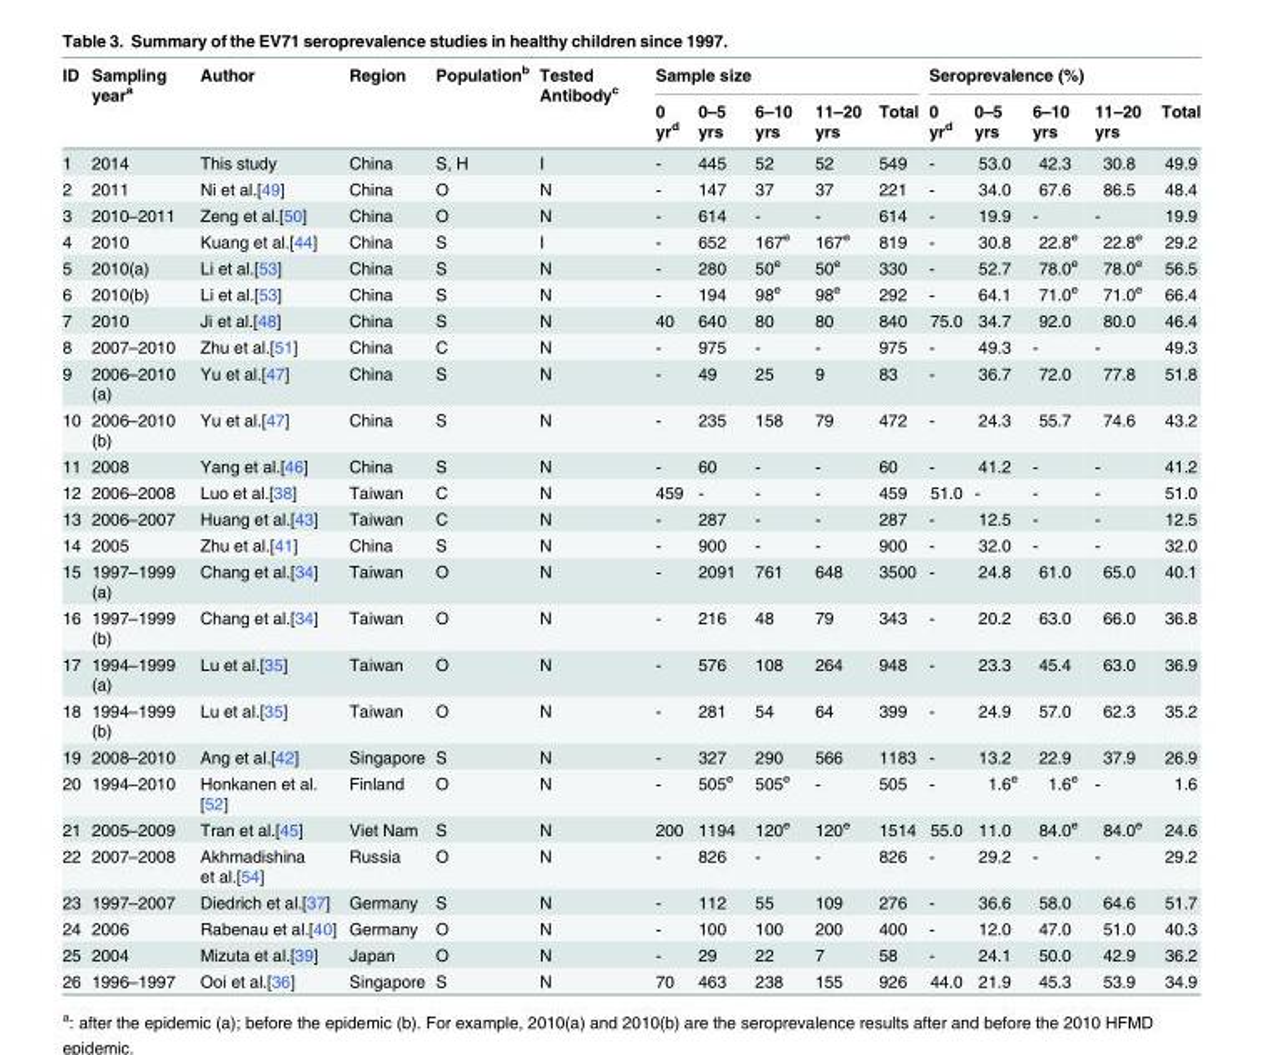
<table><thead><tr><td rowspan="2">ID</td><td rowspan="2">Sampling year<sup>a</sup></td><td rowspan="2">Author</td><td rowspan="2">Region</td><td rowspan="2">Population<sup>b</sup></td><td rowspan="2">Tested Antibody<sup>c</sup></td><td colspan="5">Sample size</td><td colspan="5">Seroprevalence (%)</td></tr><tr><td>0 yr<sup>d</sup></td><td>0–5 yrs</td><td>6–10 yrs</td><td>11–20 yrs</td><td>Total</td><td>0 yr<sup>d</sup></td><td>0–5 yrs</td><td>6–10 yrs</td><td>11–20 yrs</td><td>Total</td></tr></thead><tbody><tr><td>1</td><td>2014</td><td>This study</td><td>China</td><td>S, H</td><td>I</td><td>-</td><td>445</td><td>52</td><td>52</td><td>549</td><td>-</td><td>53.0</td><td>42.3</td><td>30.8</td><td>49.9</td></tr><tr><td>2</td><td>2011</td><td>Ni et al.[49]</td><td>China</td><td>O</td><td>N</td><td>-</td><td>147</td><td>37</td><td>37</td><td>221</td><td>-</td><td>34.0</td><td>67.6</td><td>86.5</td><td>48.4</td></tr><tr><td>3</td><td>2010–2011</td><td>Zeng et al.[50]</td><td>China</td><td>O</td><td>N</td><td>-</td><td>614</td><td>-</td><td>-</td><td>614</td><td>-</td><td>19.9</td><td>-</td><td>-</td><td>19.9</td></tr><tr><td>4</td><td>2010</td><td>Kuang et al.[44]</td><td>China</td><td>S</td><td>I</td><td>-</td><td>652</td><td>167<sup>e</sup></td><td>167<sup>e</sup></td><td>819</td><td>-</td><td>30.8</td><td>22.8<sup>e</sup></td><td>22.8<sup>e</sup></td><td>29.2</td></tr><tr><td>5</td><td>2010(a)</td><td>Li et al.[53]</td><td>China</td><td>S</td><td>N</td><td>-</td><td>280</td><td>50<sup>e</sup></td><td>50<sup>e</sup></td><td>330</td><td>-</td><td>52.7</td><td>78.0<sup>e</sup></td><td>78.0<sup>e</sup></td><td>56.5</td></tr><tr><td>6</td><td>2010(b)</td><td>Li et al.[53]</td><td>China</td><td>S</td><td>N</td><td>-</td><td>194</td><td>98<sup>e</sup></td><td>98<sup>e</sup></td><td>292</td><td>-</td><td>64.1</td><td>71.0<sup>e</sup></td><td>71.0<sup>e</sup></td><td>66.4</td></tr><tr><td>7</td><td>2010</td><td>Ji et al.[48]</td><td>China</td><td>S</td><td>N</td><td>40</td><td>640</td><td>80</td><td>80</td><td>840</td><td>75.0</td><td>34.7</td><td>92.0</td><td>80.0</td><td>46.4</td></tr><tr><td>8</td><td>2007–2010</td><td>Zhu et al.[51]</td><td>China</td><td>C</td><td>N</td><td>-</td><td>975</td><td>-</td><td>-</td><td>975</td><td>-</td><td>49.3</td><td>-</td><td>-</td><td>49.3</td></tr><tr><td>9</td><td>2006–2010 (a)</td><td>Yu et al.[47]</td><td>China</td><td>S</td><td>N</td><td>-</td><td>49</td><td>25</td><td>9</td><td>83</td><td>-</td><td>36.7</td><td>72.0</td><td>77.8</td><td>51.8</td></tr><tr><td>10</td><td>2006–2010 (b)</td><td>Yu et al.[47]</td><td>China</td><td>S</td><td>N</td><td>-</td><td>235</td><td>158</td><td>79</td><td>472</td><td>-</td><td>24.3</td><td>55.7</td><td>74.6</td><td>43.2</td></tr><tr><td>11</td><td>2008</td><td>Yang et al.[46]</td><td>China</td><td>S</td><td>N</td><td>-</td><td>60</td><td>-</td><td>-</td><td>60</td><td>-</td><td>41.2</td><td>-</td><td>-</td><td>41.2</td></tr><tr><td>12</td><td>2006–2008</td><td>Luo et al.[38]</td><td>Taiwan</td><td>C</td><td>N</td><td>459</td><td>-</td><td>-</td><td>-</td><td>459</td><td>51.0</td><td>-</td><td>-</td><td>-</td><td>51.0</td></tr><tr><td>13</td><td>2006–2007</td><td>Huang et al.[43]</td><td>Taiwan</td><td>C</td><td>N</td><td>-</td><td>287</td><td>-</td><td>-</td><td>287</td><td>-</td><td>12.5</td><td>-</td><td>-</td><td>12.5</td></tr><tr><td>14</td><td>2005</td><td>Zhu et al.[41]</td><td>China</td><td>S</td><td>N</td><td>-</td><td>900</td><td>-</td><td>-</td><td>900</td><td>-</td><td>32.0</td><td>-</td><td>-</td><td>32.0</td></tr><tr><td>15</td><td>1997–1999 (a)</td><td>Chang et al.[34]</td><td>Taiwan</td><td>O</td><td>N</td><td>-</td><td>2091</td><td>761</td><td>648</td><td>3500</td><td>-</td><td>24.8</td><td>61.0</td><td>65.0</td><td>40.1</td></tr><tr><td>16</td><td>1997–1999 (b)</td><td>Chang et al.[34]</td><td>Taiwan</td><td>O</td><td>N</td><td>-</td><td>216</td><td>48</td><td>79</td><td>343</td><td>-</td><td>20.2</td><td>63.0</td><td>66.0</td><td>36.8</td></tr><tr><td>17</td><td>1994–1999 (a)</td><td>Lu et al.[35]</td><td>Taiwan</td><td>O</td><td>N</td><td>-</td><td>576</td><td>108</td><td>264</td><td>948</td><td>-</td><td>23.3</td><td>45.4</td><td>63.0</td><td>36.9</td></tr><tr><td>18</td><td>1994–1999 (b)</td><td>Lu et al.[35]</td><td>Taiwan</td><td>O</td><td>N</td><td>-</td><td>281</td><td>54</td><td>64</td><td>399</td><td>-</td><td>24.9</td><td>57.0</td><td>62.3</td><td>35.2</td></tr><tr><td>19</td><td>2008–2010</td><td>Ang et al.[42]</td><td>Singapore</td><td>S</td><td>N</td><td>-</td><td>327</td><td>290</td><td>566</td><td>1183</td><td>-</td><td>13.2</td><td>22.9</td><td>37.9</td><td>26.9</td></tr><tr><td>20</td><td>1994–2010</td><td>Honkanen et al. [52]</td><td>Finland</td><td>O</td><td>N</td><td>-</td><td>505<sup>e</sup></td><td>505<sup>e</sup></td><td>-</td><td>505</td><td>-</td><td>1.6<sup>e</sup></td><td>1.6<sup>e</sup></td><td>-</td><td>1.6</td></tr><tr><td>21</td><td>2005–2009</td><td>Tran et al.[45]</td><td>Viet Nam</td><td>S</td><td>N</td><td>200</td><td>1194</td><td>120<sup>e</sup></td><td>120<sup>e</sup></td><td>1514</td><td>55.0</td><td>11.0</td><td>84.0<sup>e</sup></td><td>84.0<sup>e</sup></td><td>24.6</td></tr><tr><td>22</td><td>2007–2008</td><td>Akhmadishina et al.[54]</td><td>Russia</td><td>O</td><td>N</td><td>-</td><td>826</td><td>-</td><td>-</td><td>826</td><td>-</td><td>29.2</td><td>-</td><td>-</td><td>29.2</td></tr><tr><td>23</td><td>1997–2007</td><td>Diedrich et al.[37]</td><td>Germany</td><td>S</td><td>N</td><td>-</td><td>112</td><td>55</td><td>109</td><td>276</td><td>-</td><td>36.6</td><td>58.0</td><td>64.6</td><td>51.7</td></tr><tr><td>24</td><td>2006</td><td>Rabenau et al.[40]</td><td>Germany</td><td>O</td><td>N</td><td>-</td><td>100</td><td>100</td><td>200</td><td>400</td><td>-</td><td>12.0</td><td>47.0</td><td>51.0</td><td>40.3</td></tr><tr><td>25</td><td>2004</td><td>Mizuta et al.[39]</td><td>Japan</td><td>O</td><td>N</td><td>-</td><td>29</td><td>22</td><td>7</td><td>58</td><td>-</td><td>24.1</td><td>50.0</td><td>42.9</td><td>36.2</td></tr><tr><td>26</td><td>1996–1997</td><td>Ooi et al.[36]</td><td>Singapore</td><td>S</td><td>N</td><td>70</td><td>463</td><td>238</td><td>155</td><td>926</td><td>44.0</td><td>21.9</td><td>45.3</td><td>53.9</td><td>34.9</td></tr></tbody></table>